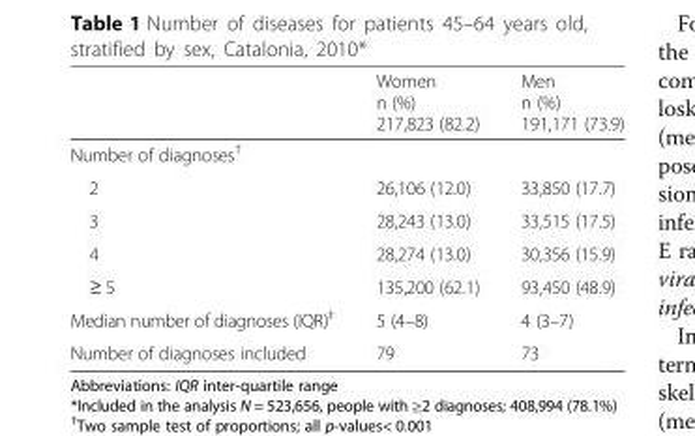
<table><thead><tr><td></td><td>Women n (%) 217,823 (82.2)</td><td>Men n (%) 191,171 (73.9)</td></tr></thead><tbody><tr><td colspan="3">Number of diagnoses<sup>†</sup></td></tr><tr><td>2</td><td>26,106 (12.0)</td><td>33,850 (17.7)</td></tr><tr><td>3</td><td>28,243 (13.0)</td><td>33,515 (17.5)</td></tr><tr><td>4</td><td>28,274 (13.0)</td><td>30,356 (15.9)</td></tr><tr><td>≥ 5</td><td>135,200 (62.1)</td><td>93,450 (48.9)</td></tr><tr><td>Median number of diagnoses (IQR)<sup>‡</sup></td><td>5 (4–8)</td><td>4 (3–7)</td></tr><tr><td>Number of diagnoses included</td><td>79</td><td>73</td></tr></tbody></table>